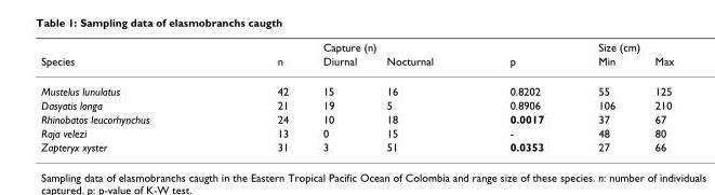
<table><thead><tr><td rowspan="2">Species</td><td rowspan="2">n</td><td colspan="2">Capture (n)</td><td rowspan="2">p</td><td colspan="2">Size (cm)</td></tr><tr><td>Diurnal</td><td>Nocturnal</td><td>Min</td><td>Max</td></tr></thead><tbody><tr><td>Mustelus lunulatus</td><td>42</td><td>15</td><td>16</td><td>0.8202</td><td>55</td><td>125</td></tr><tr><td>Dasyatis longa</td><td>21</td><td>19</td><td>5</td><td>0.8906</td><td>106</td><td>210</td></tr><tr><td>Rhinobatos leucorhynchus</td><td>24</td><td>10</td><td>18</td><td>0.0017</td><td>37</td><td>67</td></tr><tr><td>Raja velezi</td><td>13</td><td>0</td><td>15</td><td>-</td><td>48</td><td>80</td></tr><tr><td>Zapteryx xyster</td><td>31</td><td>3</td><td>51</td><td>0.0353</td><td>27</td><td>66</td></tr></tbody></table>